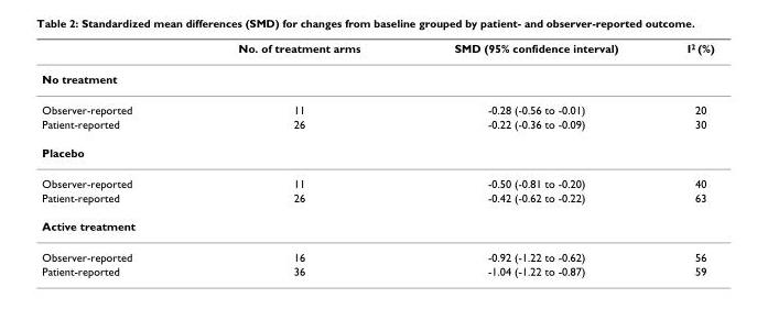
<table><thead><tr><td></td><td>No. of treatment arms</td><td>SMD (95% confidence interval)</td><td>I<sup>2</sup> (%)</td></tr></thead><tbody><tr><td colspan="4">No treatment</td></tr><tr><td>Observer-reported</td><td>11</td><td>-0.28 (-0.56 to -0.01)</td><td>20</td></tr><tr><td>Patient-reported</td><td>26</td><td>-0.22 (-0.36 to -0.09)</td><td>30</td></tr><tr><td colspan="4">Placebo</td></tr><tr><td>Observer-reported</td><td>11</td><td>-0.50 (-0.81 to -0.20)</td><td>40</td></tr><tr><td>Patient-reported</td><td>26</td><td>-0.42 (-0.62 to -0.22)</td><td>63</td></tr><tr><td colspan="4">Active treatment</td></tr><tr><td>Observer-reported</td><td>16</td><td>-0.92 (-1.22 to -0.62)</td><td>56</td></tr><tr><td>Patient-reported</td><td>36</td><td>-1.04 (-1.22 to -0.87)</td><td>59</td></tr></tbody></table>